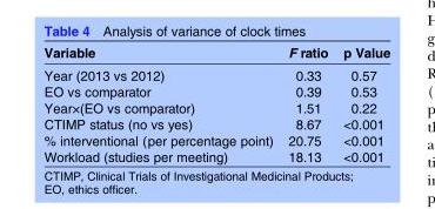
<table><thead><tr><td>Variable</td><td>F ratio</td><td>p Value</td></tr></thead><tbody><tr><td>Year (2013 vs 2012)</td><td>0.33</td><td>0.57</td></tr><tr><td>EO vs comparator</td><td>0.39</td><td>0.53</td></tr><tr><td>Year×(EO vs comparator)</td><td>1.51</td><td>0.22</td></tr><tr><td>CTIMP status (no vs yes)</td><td>8.67</td><td>&lt;0.001</td></tr><tr><td>% interventional (per percentage point)</td><td>20.75</td><td>&lt;0.001</td></tr><tr><td>Workload (studies per meeting)</td><td>18.13</td><td>&lt;0.001</td></tr></tbody></table>